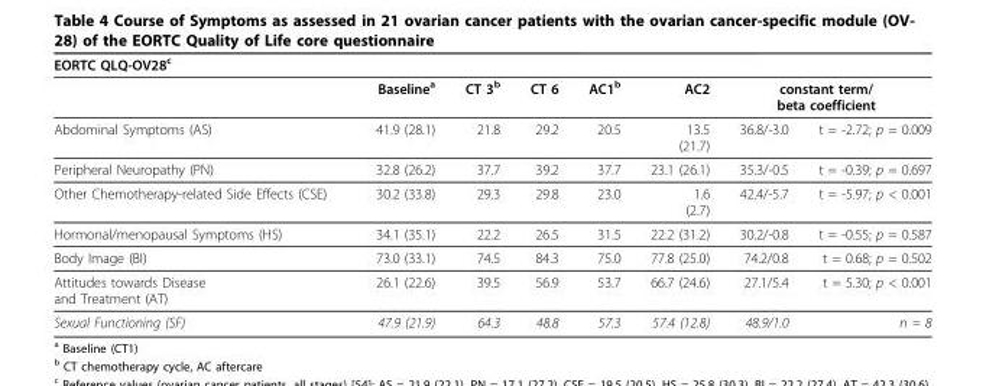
<table><thead><tr><td colspan="8">EORTC QLQ-OV28c</td></tr><tr><td rowspan="2">Abdominal Symptoms (AS)</td><td rowspan="2">Baselinea 41.9 (28.1)</td><td rowspan="2">CT 3b 21.8</td><td rowspan="2">CT 6 29.2</td><td rowspan="2">AC1b 20.5</td><td rowspan="2">AC2 13.5 (21.7)</td><td colspan="2">constant term/ beta coefficient</td></tr><tr><td>36.8/-3.0</td><td>t = -2.72; p = 0.009</td></tr></thead><tbody><tr><td>Peripheral Neuropathy (PN)</td><td>32.8 (26.2)</td><td>37.7</td><td>39.2</td><td>37.7</td><td>23.1 (26.1)</td><td>35.3/-0.5</td><td>t = -0.39; p = 0.697</td></tr><tr><td>Other Chemotherapy-related Side Effects (CSE)</td><td>30.2 (33.8)</td><td>29.3</td><td>29.8</td><td>23.0</td><td>1.6 (2.7)</td><td>42.4/-5.7</td><td>t = -5.97; p &lt; 0.001</td></tr><tr><td>Hormonal/menopausal Symptoms (HS)</td><td>34.1 (35.1)</td><td>22.2</td><td>26.5</td><td>31.5</td><td>22.2 (31.2)</td><td>30.2/-0.8</td><td>t = -0.55; p = 0.587</td></tr><tr><td>Body Image (BI)</td><td>73.0 (33.1)</td><td>74.5</td><td>84.3</td><td>75.0</td><td>77.8 (25.0)</td><td>74.2/0.8</td><td>t = 0.68; p = 0.502</td></tr><tr><td>Attitudes towards Disease and Treatment (AT)</td><td>26.1 (22.6)</td><td>39.5</td><td>56.9</td><td>53.7</td><td>66.7 (24.6)</td><td>27.1/5.4</td><td>t = 5.30; p &lt; 0.001</td></tr><tr><td>Sexual Functioning (SF)</td><td>47.9 (21.9)</td><td>64.3</td><td>48.8</td><td>57.3</td><td>57.4 (12.8)</td><td>48.9/1.0</td><td>n = 8</td></tr></tbody></table>